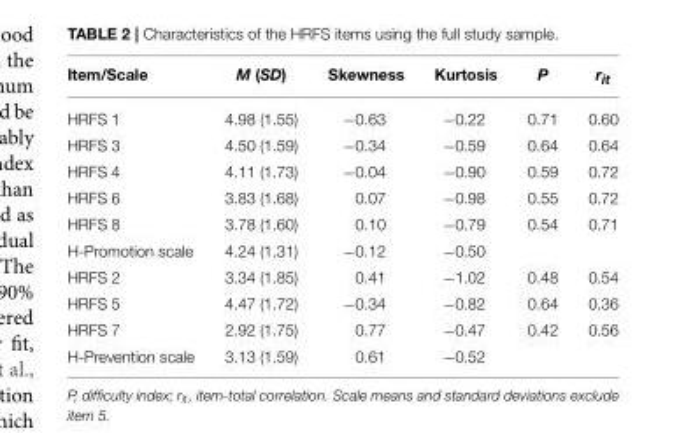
<table><thead><tr><td>Item/Scale</td><td>M (SD)</td><td>Skewness</td><td>Kurtosis</td><td>P</td><td>rit</td></tr></thead><tbody><tr><td>HRFS 1</td><td>4.98 (1.55)</td><td>−0.63</td><td>−0.22</td><td>0.71</td><td>0.60</td></tr><tr><td>HRFS 3</td><td>4.50 (1.59)</td><td>−0.34</td><td>−0.59</td><td>0.64</td><td>0.64</td></tr><tr><td>HRFS 4</td><td>4.11 (1.73)</td><td>−0.04</td><td>−0.90</td><td>0.59</td><td>0.72</td></tr><tr><td>HRFS 6</td><td>3.83 (1.68)</td><td>0.07</td><td>−0.98</td><td>0.55</td><td>0.72</td></tr><tr><td>HRFS 8</td><td>3.78 (1.60)</td><td>0.10</td><td>−0.79</td><td>0.54</td><td>0.71</td></tr><tr><td>H-Promotion scale</td><td>4.24 (1.31)</td><td>−0.12</td><td>−0.50</td><td></td><td></td></tr><tr><td>HRFS 2</td><td>3.34 (1.85)</td><td>0.41</td><td>−1.02</td><td>0.48</td><td>0.54</td></tr><tr><td>HRFS 5</td><td>4.47 (1.72)</td><td>−0.34</td><td>−0.82</td><td>0.64</td><td>0.36</td></tr><tr><td>HRFS 7</td><td>2.92 (1.75)</td><td>0.77</td><td>−0.47</td><td>0.42</td><td>0.56</td></tr><tr><td>H-Prevention scale</td><td>3.13 (1.59)</td><td>0.61</td><td>−0.52</td><td></td><td></td></tr></tbody></table>